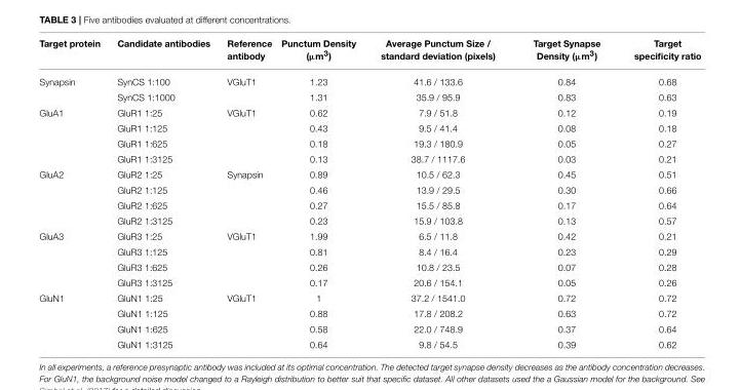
<table><thead><tr><td>Target protein</td><td>Candidate antibodies</td><td>Reference antibody</td><td>Punctum Density (µm<sup>3</sup>)</td><td>Average Punctum Size / standard deviation (pixels)</td><td>Target Synapse Density (µm<sup>3</sup>)</td><td>Target specificity ratio</td></tr></thead><tbody><tr><td rowspan="2">Synapsin</td><td>SynCS 1:100</td><td>VGluT1</td><td>1.23</td><td>41.6 / 133.6</td><td>0.84</td><td>0.68</td></tr><tr><td>SynCS 1:1000</td><td></td><td>1.31</td><td>35.9 / 95.9</td><td>0.83</td><td>0.63</td></tr><tr><td rowspan="4">GluA1</td><td>GluR1 1:25</td><td>VGluT1</td><td>0.62</td><td>7.9 / 51.8</td><td>0.12</td><td>0.19</td></tr><tr><td>GluR1 1:125</td><td></td><td>0.43</td><td>9.5 / 41.4</td><td>0.08</td><td>0.18</td></tr><tr><td>GluR1 1:625</td><td></td><td>0.18</td><td>19.3 / 180.9</td><td>0.05</td><td>0.27</td></tr><tr><td>GluR1 1:3125</td><td></td><td>0.13</td><td>38.7 / 1117.6</td><td>0.03</td><td>0.21</td></tr><tr><td rowspan="4">GluA2</td><td>GluR2 1:25</td><td>Synapsin</td><td>0.89</td><td>10.5 / 62.3</td><td>0.45</td><td>0.51</td></tr><tr><td>GluR2 1:125</td><td></td><td>0.46</td><td>13.9 / 29.5</td><td>0.30</td><td>0.66</td></tr><tr><td>GluR2 1:625</td><td></td><td>0.27</td><td>15.5 / 85.8</td><td>0.17</td><td>0.64</td></tr><tr><td>GluR2 1:3125</td><td></td><td>0.23</td><td>15.9 / 103.8</td><td>0.13</td><td>0.57</td></tr><tr><td rowspan="4">GluA3</td><td>GluR3 1:25</td><td>VGluT1</td><td>1.99</td><td>6.5 / 11.8</td><td>0.42</td><td>0.21</td></tr><tr><td>GluR3 1:125</td><td></td><td>0.81</td><td>8.4 / 16.4</td><td>0.23</td><td>0.29</td></tr><tr><td>GluR3 1:625</td><td></td><td>0.26</td><td>10.8 / 23.5</td><td>0.07</td><td>0.28</td></tr><tr><td>GluR3 1:3125</td><td></td><td>0.17</td><td>20.6 / 154.1</td><td>0.05</td><td>0.26</td></tr><tr><td rowspan="4">GluN1</td><td>GluN1 1:25</td><td>VGluT1</td><td>1</td><td>37.2 / 1541.0</td><td>0.72</td><td>0.72</td></tr><tr><td>GluN1 1:125</td><td></td><td>0.88</td><td>17.8 / 208.2</td><td>0.63</td><td>0.72</td></tr><tr><td>GluN1 1:625</td><td></td><td>0.58</td><td>22.0 / 748.9</td><td>0.37</td><td>0.64</td></tr><tr><td>GluN1 1:3125</td><td></td><td>0.64</td><td>9.8 / 54.5</td><td>0.39</td><td>0.62</td></tr></tbody></table>